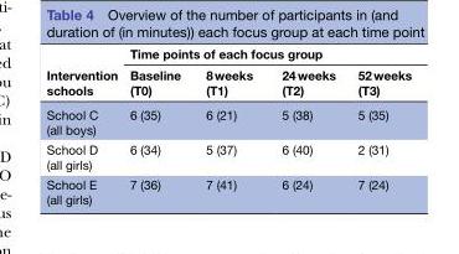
<table><thead><tr><td rowspan="2">Intervention schools</td><td colspan="4">Time points of each focus group</td></tr><tr><td>Baseline (T0)</td><td>8 weeks (T1)</td><td>24 weeks (T2)</td><td>52 weeks (T3)</td></tr></thead><tbody><tr><td>School C (all boys)</td><td>6 (35)</td><td>6 (21)</td><td>5 (38)</td><td>5 (35)</td></tr><tr><td>School D (all girls)</td><td>6 (34)</td><td>5 (37)</td><td>6 (40)</td><td>2 (31)</td></tr><tr><td>School E (all girls)</td><td>7 (36)</td><td>7 (41)</td><td>6 (24)</td><td>7 (24)</td></tr></tbody></table>